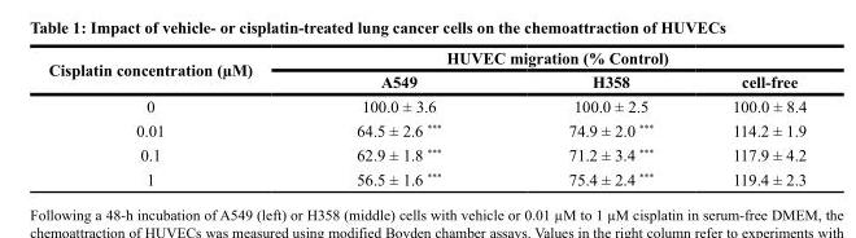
<table><thead><tr><td rowspan="2">Cisplatin concentration (µM)</td><td colspan="3">HUVEC migration (% Control)</td></tr><tr><td>A549</td><td>H358</td><td>cell-free</td></tr></thead><tbody><tr><td>0</td><td>100.0 ± 3.6</td><td>100.0 ± 2.5</td><td>100.0 ± 8.4</td></tr><tr><td>0.01</td><td>64.5 ± 2.6 ***</td><td>74.9 ± 2.0 ***</td><td>114.2 ± 1.9</td></tr><tr><td>0.1</td><td>62.9 ± 1.8 ***</td><td>71.2 ± 3.4 ***</td><td>117.9 ± 4.2</td></tr><tr><td>1</td><td>56.5 ± 1.6 ***</td><td>75.4 ± 2.4 ***</td><td>119.4 ± 2.3</td></tr></tbody></table>